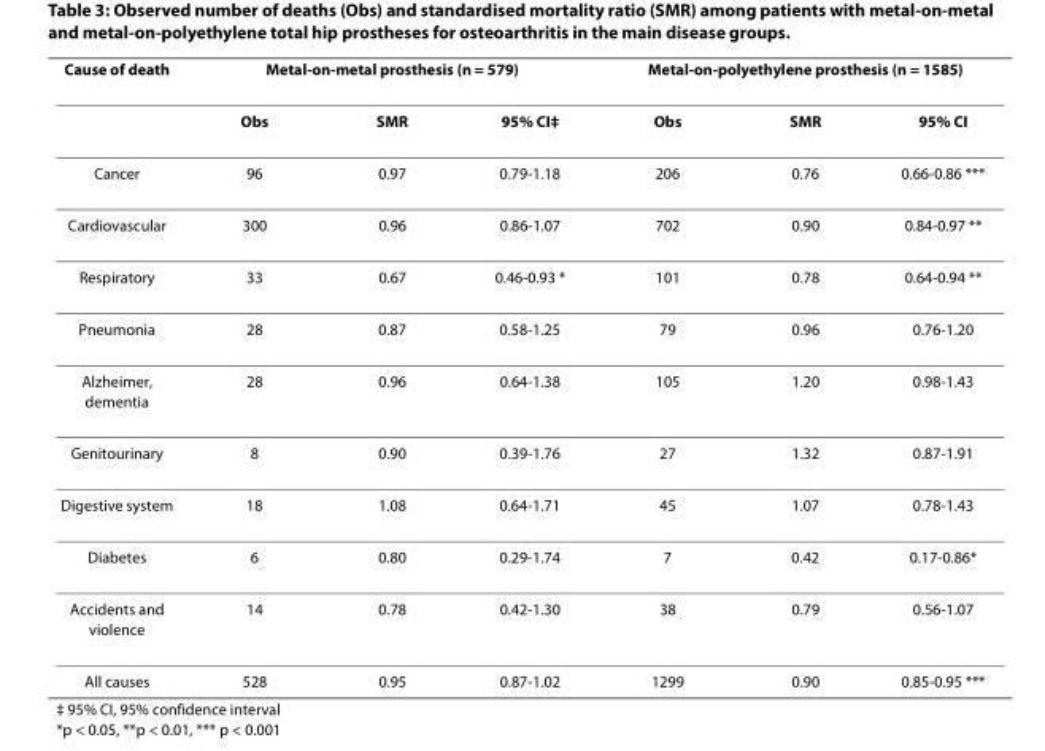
<table><thead><tr><td rowspan="2">Cause of death</td><td colspan="3">Metal-on-metal prosthesis (n = 579)</td><td colspan="3">Metal-on-polyethylene prosthesis (n = 1585)</td></tr><tr><td>Obs</td><td>SMR</td><td>95% CI‡</td><td>Obs</td><td>SMR</td><td>95% CI</td></tr></thead><tbody><tr><td>Cancer</td><td>96</td><td>0.97</td><td>0.79-1.18</td><td>206</td><td>0.76</td><td>0.66-0.86 ***</td></tr><tr><td>Cardiovascular</td><td>300</td><td>0.96</td><td>0.86-1.07</td><td>702</td><td>0.90</td><td>0.84-0.97 **</td></tr><tr><td>Respiratory</td><td>33</td><td>0.67</td><td>0.46-0.93 *</td><td>101</td><td>0.78</td><td>0.64-0.94 **</td></tr><tr><td>Pneumonia</td><td>28</td><td>0.87</td><td>0.58-1.25</td><td>79</td><td>0.96</td><td>0.76-1.20</td></tr><tr><td>Alzheimer, dementia</td><td>28</td><td>0.96</td><td>0.64-1.38</td><td>105</td><td>1.20</td><td>0.98-1.43</td></tr><tr><td>Genitourinary</td><td>8</td><td>0.90</td><td>0.39-1.76</td><td>27</td><td>1.32</td><td>0.87-1.91</td></tr><tr><td>Digestive system</td><td>18</td><td>1.08</td><td>0.64-1.71</td><td>45</td><td>1.07</td><td>0.78-1.43</td></tr><tr><td>Diabetes</td><td>6</td><td>0.80</td><td>0.29-1.74</td><td>7</td><td>0.42</td><td>0.17-0.86*</td></tr><tr><td>Accidents and violence</td><td>14</td><td>0.78</td><td>0.42-1.30</td><td>38</td><td>0.79</td><td>0.56-1.07</td></tr><tr><td>All causes</td><td>528</td><td>0.95</td><td>0.87-1.02</td><td>1299</td><td>0.90</td><td>0.85-0.95 ***</td></tr></tbody></table>